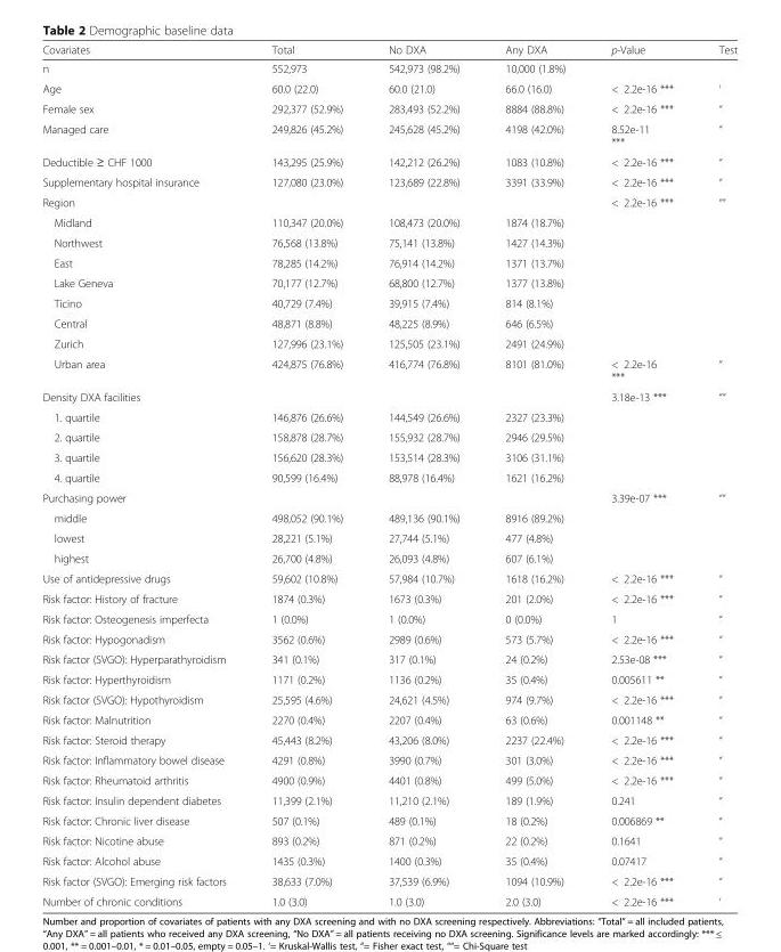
<table><thead><tr><td>Covariates</td><td>Total</td><td>No DXA</td><td>Any DXA</td><td>p-Value</td><td>Test</td></tr></thead><tbody><tr><td>n</td><td>552,973</td><td>542,973 (98.2%)</td><td>10,000 (1.8%)</td><td></td><td></td></tr><tr><td>Age</td><td>60.0 (22.0)</td><td>60.0 (21.0)</td><td>66.0 (16.0)</td><td>&lt; 2.2e-16 ***</td><td>‘</td></tr><tr><td>Female sex</td><td>292,377 (52.9%)</td><td>283,493 (52.2%)</td><td>8884 (88.8%)</td><td>&lt; 2.2e-16 ***</td><td>“</td></tr><tr><td>Managed care</td><td>249,826 (45.2%)</td><td>245,628 (45.2%)</td><td>4198 (42.0%)</td><td>8.52e-11 ***</td><td>“</td></tr><tr><td>Deductible ≥ CHF 1000</td><td>143,295 (25.9%)</td><td>142,212 (26.2%)</td><td>1083 (10.8%)</td><td>&lt; 2.2e-16 ***</td><td>“</td></tr><tr><td>Supplementary hospital insurance</td><td>127,080 (23.0%)</td><td>123,689 (22.8%)</td><td>3391 (33.9%)</td><td>&lt; 2.2e-16 ***</td><td>“</td></tr><tr><td>Region</td><td></td><td></td><td></td><td>&lt; 2.2e-16 ***</td><td>““</td></tr><tr><td>Midland</td><td>110,347 (20.0%)</td><td>108,473 (20.0%)</td><td>1874 (18.7%)</td><td></td><td></td></tr><tr><td>Northwest</td><td>76,568 (13.8%)</td><td>75,141 (13.8%)</td><td>1427 (14.3%)</td><td></td><td></td></tr><tr><td>East</td><td>78,285 (14.2%)</td><td>76,914 (14.2%)</td><td>1371 (13.7%)</td><td></td><td></td></tr><tr><td>Lake Geneva</td><td>70,177 (12.7%)</td><td>68,800 (12.7%)</td><td>1377 (13.8%)</td><td></td><td></td></tr><tr><td>Ticino</td><td>40,729 (7.4%)</td><td>39,915 (7.4%)</td><td>814 (8.1%)</td><td></td><td></td></tr><tr><td>Central</td><td>48,871 (8.8%)</td><td>48,225 (8.9%)</td><td>646 (6.5%)</td><td></td><td></td></tr><tr><td>Zurich</td><td>127,996 (23.1%)</td><td>125,505 (23.1%)</td><td>2491 (24.9%)</td><td></td><td></td></tr><tr><td>Urban area</td><td>424,875 (76.8%)</td><td>416,774 (76.8%)</td><td>8101 (81.0%)</td><td>&lt; 2.2e-16 ***</td><td>“</td></tr><tr><td>Density DXA facilities</td><td></td><td></td><td></td><td>3.18e-13 ***</td><td>““</td></tr><tr><td>1. quartile</td><td>146,876 (26.6%)</td><td>144,549 (26.6%)</td><td>2327 (23.3%)</td><td></td><td></td></tr><tr><td>2. quartile</td><td>158,878 (28.7%)</td><td>155,932 (28.7%)</td><td>2946 (29.5%)</td><td></td><td></td></tr><tr><td>3. quartile</td><td>156,620 (28.3%)</td><td>153,514 (28.3%)</td><td>3106 (31.1%)</td><td></td><td></td></tr><tr><td>4. quartile</td><td>90,599 (16.4%)</td><td>88,978 (16.4%)</td><td>1621 (16.2%)</td><td></td><td></td></tr><tr><td>Purchasing power</td><td></td><td></td><td></td><td>3.39e-07 ***</td><td>““</td></tr><tr><td>middle</td><td>498,052 (90.1%)</td><td>489,136 (90.1%)</td><td>8916 (89.2%)</td><td></td><td></td></tr><tr><td>lowest</td><td>28,221 (5.1%)</td><td>27,744 (5.1%)</td><td>477 (4.8%)</td><td></td><td></td></tr><tr><td>highest</td><td>26,700 (4.8%)</td><td>26,093 (4.8%)</td><td>607 (6.1%)</td><td></td><td></td></tr><tr><td>Use of antidepressive drugs</td><td>59,602 (10.8%)</td><td>57,984 (10.7%)</td><td>1618 (16.2%)</td><td>&lt; 2.2e-16 ***</td><td>“</td></tr><tr><td>Risk factor: History of fracture</td><td>1874 (0.3%)</td><td>1673 (0.3%)</td><td>201 (2.0%)</td><td>&lt; 2.2e-16 ***</td><td>“</td></tr><tr><td>Risk factor: Osteogenesis imperfecta</td><td>1 (0.0%)</td><td>1 (0.0%)</td><td>0 (0.0%)</td><td>1</td><td>“</td></tr><tr><td>Risk factor: Hypogonadism</td><td>3562 (0.6%)</td><td>2989 (0.6%)</td><td>573 (5.7%)</td><td>&lt; 2.2e-16 ***</td><td>“</td></tr><tr><td>Risk factor (SVGO): Hyperparathyroidism</td><td>341 (0.1%)</td><td>317 (0.1%)</td><td>24 (0.2%)</td><td>2.53e-08 ***</td><td>“</td></tr><tr><td>Risk factor: Hyperthyroidism</td><td>1171 (0.2%)</td><td>1136 (0.2%)</td><td>35 (0.4%)</td><td>0.005611 **</td><td>“</td></tr><tr><td>Risk factor (SVGO): Hypothyroidism</td><td>25,595 (4.6%)</td><td>24,621 (4.5%)</td><td>974 (9.7%)</td><td>&lt; 2.2e-16 ***</td><td>“</td></tr><tr><td>Risk factor: Malnutrition</td><td>2270 (0.4%)</td><td>2207 (0.4%)</td><td>63 (0.6%)</td><td>0.001148 **</td><td>“</td></tr><tr><td>Risk factor: Steroid therapy</td><td>45,443 (8.2%)</td><td>43,206 (8.0%)</td><td>2237 (22.4%)</td><td>&lt; 2.2e-16 ***</td><td>“</td></tr><tr><td>Risk factor: Inflammatory bowel disease</td><td>4291 (0.8%)</td><td>3990 (0.7%)</td><td>301 (3.0%)</td><td>&lt; 2.2e-16 ***</td><td>“</td></tr><tr><td>Risk factor: Rheumatoid arthritis</td><td>4900 (0.9%)</td><td>4401 (0.8%)</td><td>499 (5.0%)</td><td>&lt; 2.2e-16 ***</td><td>“</td></tr><tr><td>Risk factor: Insulin dependent diabetes</td><td>11,399 (2.1%)</td><td>11,210 (2.1%)</td><td>189 (1.9%)</td><td>0.241</td><td>“</td></tr><tr><td>Risk factor: Chronic liver disease</td><td>507 (0.1%)</td><td>489 (0.1%)</td><td>18 (0.2%)</td><td>0.006869 **</td><td>“</td></tr><tr><td>Risk factor: Nicotine abuse</td><td>893 (0.2%)</td><td>871 (0.2%)</td><td>22 (0.2%)</td><td>0.1641</td><td>“</td></tr><tr><td>Risk factor: Alcohol abuse</td><td>1435 (0.3%)</td><td>1400 (0.3%)</td><td>35 (0.4%)</td><td>0.07417</td><td>“</td></tr><tr><td>Risk factor (SVGO): Emerging risk factors</td><td>38,633 (7.0%)</td><td>37,539 (6.9%)</td><td>1094 (10.9%)</td><td>&lt; 2.2e-16 ***</td><td>“</td></tr><tr><td>Number of chronic conditions</td><td>1.0 (3.0)</td><td>1.0 (3.0)</td><td>2.0 (3.0)</td><td>&lt; 2.2e-16 ***</td><td>‘</td></tr></tbody></table>